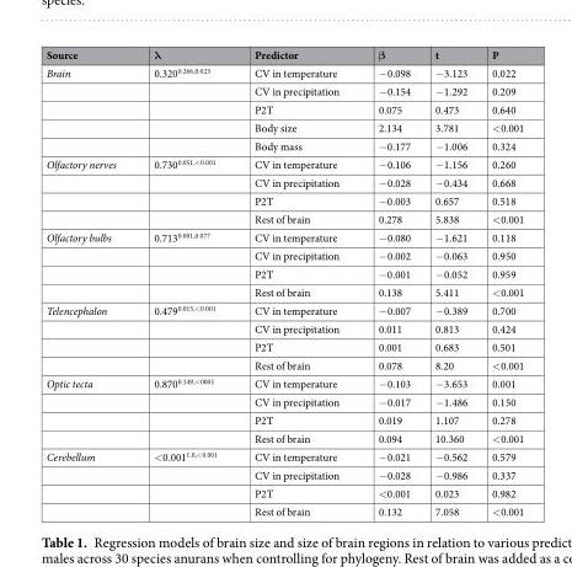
<table><thead><tr><td>Source</td><td>λ</td><td>Predictor</td><td>β</td><td>t</td><td>P</td></tr></thead><tbody><tr><td rowspan="5">Brain</td><td>0.320<sup>0.266,0.023</sup></td><td>CV in temperature</td><td>−0.098</td><td>−3.123</td><td>0.022</td></tr><tr><td></td><td>CV in precipitation</td><td>−0.154</td><td>−1.292</td><td>0.209</td></tr><tr><td></td><td>P2T</td><td>0.075</td><td>0.473</td><td>0.640</td></tr><tr><td></td><td>Body size</td><td>2.134</td><td>3.781</td><td>&lt;0.001</td></tr><tr><td></td><td>Body mass</td><td>−0.177</td><td>−1.006</td><td>0.324</td></tr><tr><td rowspan="4">Olfactory nerves</td><td>0.730<sup>0.051,&lt;0.001</sup></td><td>CV in temperature</td><td>−0.106</td><td>−1.156</td><td>0.260</td></tr><tr><td></td><td>CV in precipitation</td><td>−0.028</td><td>−0.434</td><td>0.668</td></tr><tr><td></td><td>P2T</td><td>−0.003</td><td>0.657</td><td>0.518</td></tr><tr><td></td><td>Rest of brain</td><td>0.278</td><td>5.838</td><td>&lt;0.001</td></tr><tr><td rowspan="4">Olfactory bulbs</td><td>0.713<sup>0.001,0.077</sup></td><td>CV in temperature</td><td>−0.080</td><td>−1.621</td><td>0.118</td></tr><tr><td></td><td>CV in precipitation</td><td>−0.002</td><td>−0.063</td><td>0.950</td></tr><tr><td></td><td>P2T</td><td>−0.001</td><td>−0.052</td><td>0.959</td></tr><tr><td></td><td>Rest of brain</td><td>0.138</td><td>5.411</td><td>&lt;0.001</td></tr><tr><td rowspan="4">Telencephalon</td><td>0.479<sup>0.015,&lt;0.001</sup></td><td>CV in temperature</td><td>−0.007</td><td>−0.389</td><td>0.700</td></tr><tr><td></td><td>CV in precipitation</td><td>0.011</td><td>0.813</td><td>0.424</td></tr><tr><td></td><td>P2T</td><td>0.001</td><td>0.683</td><td>0.501</td></tr><tr><td></td><td>Rest of brain</td><td>0.078</td><td>8.20</td><td>&lt;0.001</td></tr><tr><td rowspan="4">Optic tecta</td><td>0.870<sup>0.149,&lt;0001</sup></td><td>CV in temperature</td><td>−0.103</td><td>−3.653</td><td>0.001</td></tr><tr><td></td><td>CV in precipitation</td><td>−0.017</td><td>−1.486</td><td>0.150</td></tr><tr><td></td><td>P2T</td><td>0.019</td><td>1.107</td><td>0.278</td></tr><tr><td></td><td>Rest of brain</td><td>0.094</td><td>10.360</td><td>&lt;0.001</td></tr><tr><td rowspan="4">Cerebellum</td><td>&lt;0.001<sup>1.0,&lt;0.001</sup></td><td>CV in temperature</td><td>−0.021</td><td>−0.562</td><td>0.579</td></tr><tr><td></td><td>CV in precipitation</td><td>−0.028</td><td>−0.986</td><td>0.337</td></tr><tr><td></td><td>P2T</td><td>&lt;0.001</td><td>0.023</td><td>0.982</td></tr><tr><td></td><td>Rest of brain</td><td>0.132</td><td>7.058</td><td>&lt;0.001</td></tr></tbody></table>